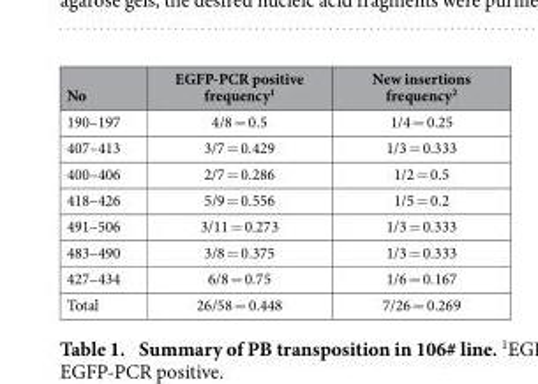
<table><thead><tr><td>No</td><td>EGFP-PCR positive frequency<sup>1</sup></td><td>New insertions frequency<sup>2</sup></td></tr></thead><tbody><tr><td>190–197</td><td>4/8 = 0.5</td><td>1/4 = 0.25</td></tr><tr><td>407–413</td><td>3/7 = 0.429</td><td>1/3 = 0.333</td></tr><tr><td>400–406</td><td>2/7 = 0.286</td><td>1/2 = 0.5</td></tr><tr><td>418–426</td><td>5/9 = 0.556</td><td>1/5 = 0.2</td></tr><tr><td>491–506</td><td>3/11 = 0.273</td><td>1/3 = 0.333</td></tr><tr><td>483–490</td><td>3/8 = 0.375</td><td>1/3 = 0.333</td></tr><tr><td>427–434</td><td>6/8 = 0.75</td><td>1/6 = 0.167</td></tr><tr><td>Total</td><td>26/58 = 0.448</td><td>7/26 = 0.269</td></tr></tbody></table>